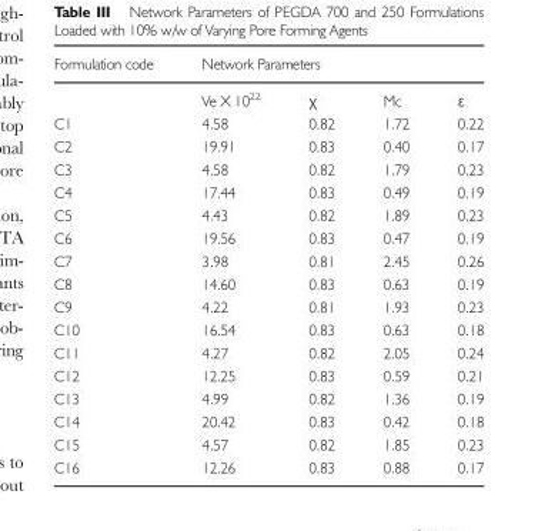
<table><thead><tr><td rowspan="2">Formulation code</td><td colspan="4">Network Parameters</td></tr><tr><td>Ve X 10<sup>22</sup></td><td>χ</td><td>Mc</td><td>ε</td></tr></thead><tbody><tr><td>C1</td><td>4.58</td><td>0.82</td><td>1.72</td><td>0.22</td></tr><tr><td>C2</td><td>19.91</td><td>0.83</td><td>0.40</td><td>0.17</td></tr><tr><td>C3</td><td>4.58</td><td>0.82</td><td>1.79</td><td>0.23</td></tr><tr><td>C4</td><td>17.44</td><td>0.83</td><td>0.49</td><td>0.19</td></tr><tr><td>C5</td><td>4.43</td><td>0.82</td><td>1.89</td><td>0.23</td></tr><tr><td>C6</td><td>19.56</td><td>0.83</td><td>0.47</td><td>0.19</td></tr><tr><td>C7</td><td>3.98</td><td>0.81</td><td>2.45</td><td>0.26</td></tr><tr><td>C8</td><td>14.60</td><td>0.83</td><td>0.63</td><td>0.19</td></tr><tr><td>C9</td><td>4.22</td><td>0.81</td><td>1.93</td><td>0.23</td></tr><tr><td>C10</td><td>16.54</td><td>0.83</td><td>0.63</td><td>0.18</td></tr><tr><td>C11</td><td>4.27</td><td>0.82</td><td>2.05</td><td>0.24</td></tr><tr><td>C12</td><td>12.25</td><td>0.83</td><td>0.59</td><td>0.21</td></tr><tr><td>C13</td><td>4.99</td><td>0.82</td><td>1.36</td><td>0.19</td></tr><tr><td>C14</td><td>20.42</td><td>0.83</td><td>0.42</td><td>0.18</td></tr><tr><td>C15</td><td>4.57</td><td>0.82</td><td>1.85</td><td>0.23</td></tr><tr><td>C16</td><td>12.26</td><td>0.83</td><td>0.88</td><td>0.17</td></tr></tbody></table>